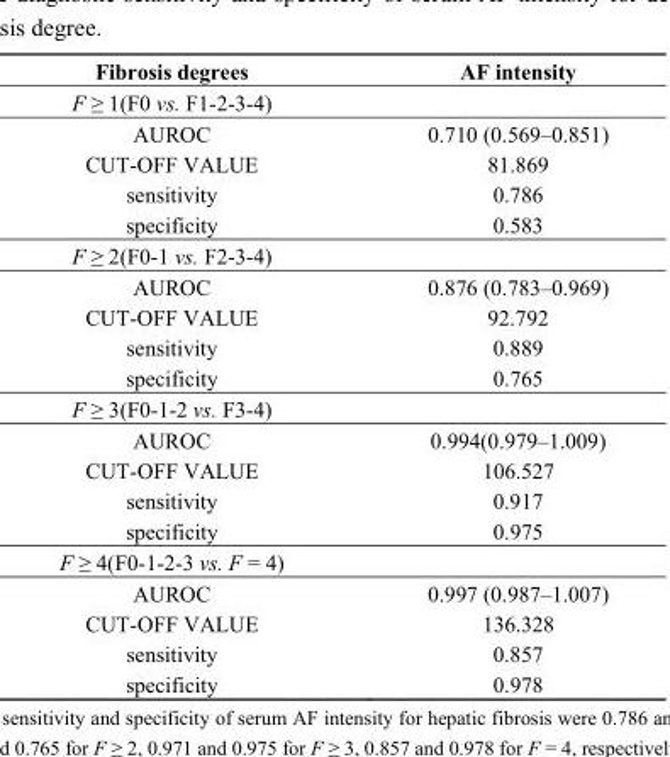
<table><thead><tr><td>Fibrosis degrees</td><td>AF intensity</td></tr></thead><tbody><tr><td colspan="2">F ≥ 1(F0 vs. F1-2-3-4)</td></tr><tr><td>AUROC</td><td>0.710 (0.569–0.851)</td></tr><tr><td>CUT-OFF VALUE</td><td>81.869</td></tr><tr><td>sensitivity</td><td>0.786</td></tr><tr><td>specificity</td><td>0.583</td></tr><tr><td colspan="2">F ≥ 2(F0-1 vs. F2-3-4)</td></tr><tr><td>AUROC</td><td>0.876 (0.783–0.969)</td></tr><tr><td>CUT-OFF VALUE</td><td>92.792</td></tr><tr><td>sensitivity</td><td>0.889</td></tr><tr><td>specificity</td><td>0.765</td></tr><tr><td colspan="2">F ≥ 3(F0-1-2 vs. F3-4)</td></tr><tr><td>AUROC</td><td>0.994(0.979–1.009)</td></tr><tr><td>CUT-OFF VALUE</td><td>106.527</td></tr><tr><td>sensitivity</td><td>0.917</td></tr><tr><td>specificity</td><td>0.975</td></tr><tr><td colspan="2">F ≥ 4(F0-1-2-3 vs. F = 4)</td></tr><tr><td>AUROC</td><td>0.997 (0.987–1.007)</td></tr><tr><td>CUT-OFF VALUE</td><td>136.328</td></tr><tr><td>sensitivity</td><td>0.857</td></tr><tr><td>specificity</td><td>0.978</td></tr></tbody></table>